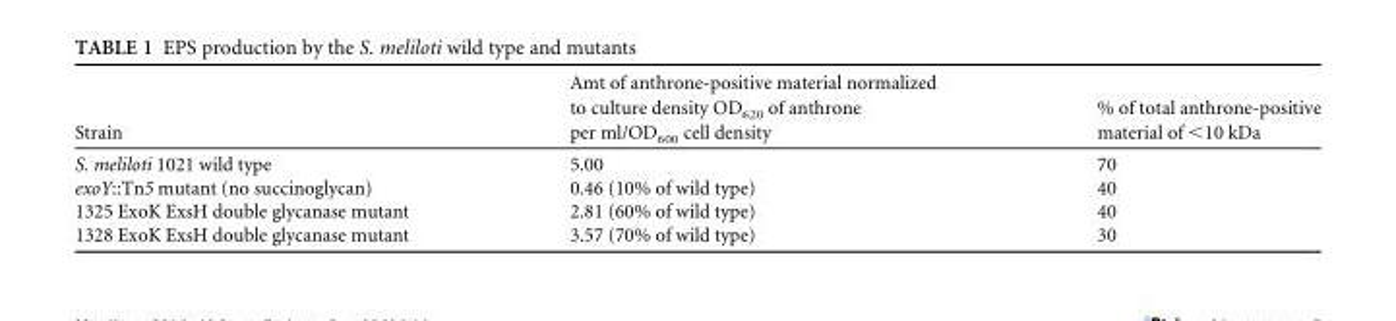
<table><thead><tr><td>Strain</td><td>Amt of anthrone-positive material normalized to culture density OD<sub>620</sub> of anthrone per ml/OD<sub>600</sub> cell density</td><td>% of total anthrone-positive material of &lt;10 kDa</td></tr></thead><tbody><tr><td>S. meliloti 1021 wild type</td><td>5.00</td><td>70</td></tr><tr><td>exoY::Tn5 mutant (no succinoglycan)</td><td>0.46 (10% of wild type)</td><td>40</td></tr><tr><td>1325 ExoK ExsH double glycanase mutant</td><td>2.81 (60% of wild type)</td><td>40</td></tr><tr><td>1328 ExoK ExsH double glycanase mutant</td><td>3.57 (70% of wild type)</td><td>30</td></tr></tbody></table>